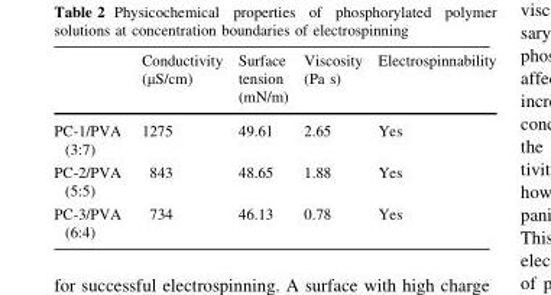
<table><thead><tr><td></td><td>Conductivity (µS/cm)</td><td>Surface tension (mN/m)</td><td>Viscosity (Pa s)</td><td>Electrospinnability</td></tr></thead><tbody><tr><td>PC-1/PVA (3:7)</td><td>1275</td><td>49.61</td><td>2.65</td><td>Yes</td></tr><tr><td>PC-2/PVA (5:5)</td><td>843</td><td>48.65</td><td>1.88</td><td>Yes</td></tr><tr><td>PC-3/PVA (6:4)</td><td>734</td><td>46.13</td><td>0.78</td><td>Yes</td></tr></tbody></table>